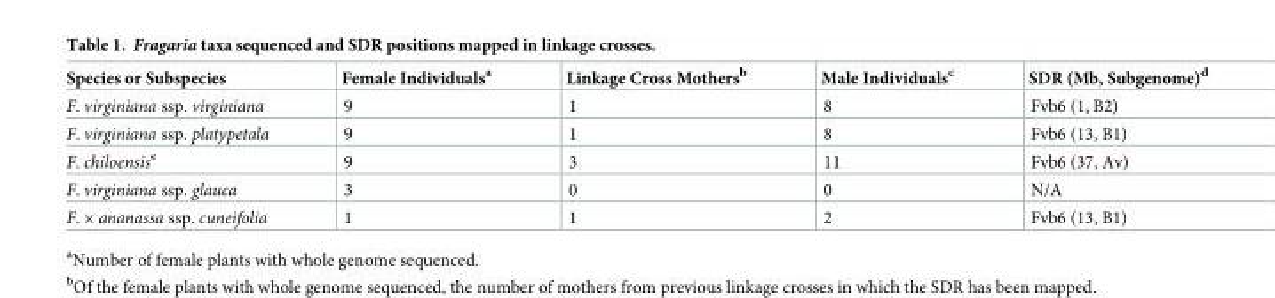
<table><thead><tr><td>Species or Subspecies</td><td>Female Individuals<sup>a</sup></td><td>Linkage Cross Mothers<sup>b</sup></td><td>Male Individuals<sup>c</sup></td><td>SDR (Mb, Subgenome)<sup>d</sup></td></tr></thead><tbody><tr><td>F. virginiana ssp. virginiana</td><td>9</td><td>1</td><td>8</td><td>Fvb6 (1, B2)</td></tr><tr><td>F. virginiana ssp. platypetala</td><td>9</td><td>1</td><td>8</td><td>Fvb6 (13, B1)</td></tr><tr><td>F. chiloensis<sup>e</sup></td><td>9</td><td>3</td><td>11</td><td>Fvb6 (37, Av)</td></tr><tr><td>F. virginiana ssp. glauca</td><td>3</td><td>0</td><td>0</td><td>N/A</td></tr><tr><td>F. × ananassa ssp. cuneifolia</td><td>1</td><td>1</td><td>2</td><td>Fvb6 (13, B1)</td></tr></tbody></table>